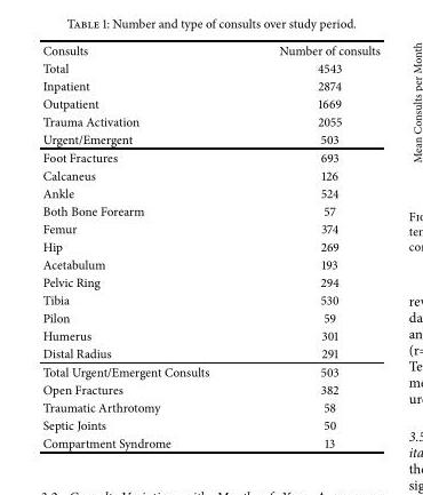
<table><tbody><tr><td>Consults</td><td>Number of consults</td></tr><tr><td>Total</td><td>4543</td></tr><tr><td>Inpatient</td><td>2874</td></tr><tr><td>Outpatient</td><td>1669</td></tr><tr><td>Trauma Activation</td><td>2055</td></tr><tr><td>Urgent/Emergent</td><td>503</td></tr><tr><td>Foot Fractures</td><td>693</td></tr><tr><td>Calcaneus</td><td>126</td></tr><tr><td>Ankle</td><td>524</td></tr><tr><td>Both Bone Forearm</td><td>57</td></tr><tr><td>Femur</td><td>374</td></tr><tr><td>Hip</td><td>269</td></tr><tr><td>Acetabulum</td><td>193</td></tr><tr><td>Pelvic Ring</td><td>294</td></tr><tr><td>Tibia</td><td>530</td></tr><tr><td>Pilon</td><td>59</td></tr><tr><td>Humerus</td><td>301</td></tr><tr><td>Distal Radius</td><td>291</td></tr><tr><td>Total Urgent/Emergent Consults</td><td>503</td></tr><tr><td>Open Fractures</td><td>382</td></tr><tr><td>Traumatic Arthrotomy</td><td>58</td></tr><tr><td>Septic Joints</td><td>50</td></tr><tr><td>Compartment Syndrome</td><td>13</td></tr></tbody></table>